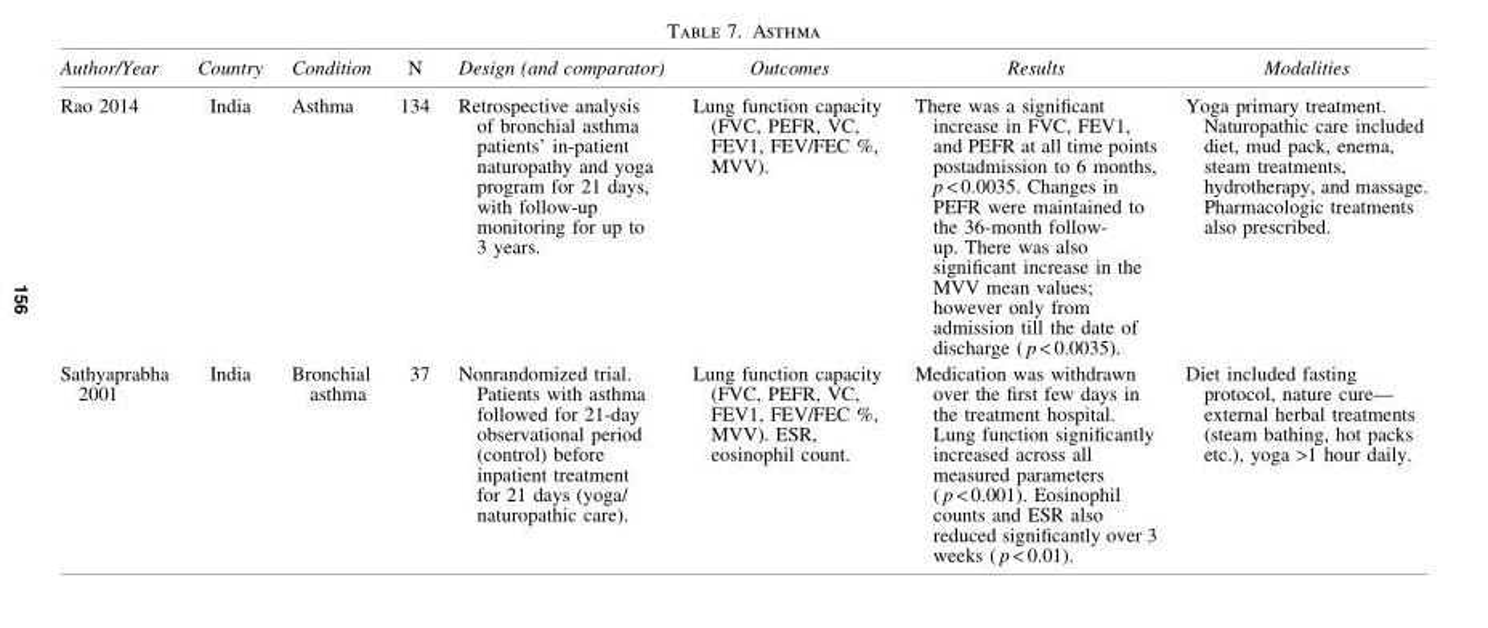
<table><thead><tr><td>Author/Year</td><td>Country</td><td>Condition</td><td>N</td><td>Design (and comparator)</td><td>Outcomes</td><td>Results</td><td>Modalities</td></tr></thead><tbody><tr><td>Rao 2014</td><td>India</td><td>Asthma</td><td>134</td><td>Retrospective analysis of bronchial asthma patients’ in-patient naturopathy and yoga program for 21 days, with follow-up monitoring for up to 3 years.</td><td>Lung function capacity (FVC, PEFR, VC, FEV1, FEV/FEC %, MVV).</td><td>There was a significant increase in FVC, FEV1, and PEFR at all time points postadmission to 6 months, p &lt; 0.0035. Changes in PEFR were maintained to the 36-month follow- up. There was also significant increase in the MVV mean values; however only from admission till the date of discharge ( p &lt; 0.0035).</td><td>Yoga primary treatment. Naturopathic care included diet, mud pack, enema, steam treatments, hydrotherapy, and massage. Pharmacologic treatments also prescribed.</td></tr><tr><td>Sathyaprabha 2001</td><td>India</td><td>Bronchial asthma</td><td>37</td><td>Nonrandomized trial. Patients with asthma followed for 21-day observational period (control) before inpatient treatment for 21 days (yoga/ naturopathic care).</td><td>Lung function capacity (FVC, PEFR, VC, FEV1, FEV/FEC %, MVV). ESR, eosinophil count.</td><td>Medication was withdrawn over the first few days in the treatment hospital. Lung function significantly increased across all measured parameters ( p &lt; 0.001). Eosinophil counts and ESR also reduced significantly over 3 weeks ( p &lt; 0.01).</td><td>Diet included fasting protocol, nature cure— external herbal treatments (steam bathing, hot packs etc.), yoga &gt;1 hour daily.</td></tr></tbody></table>